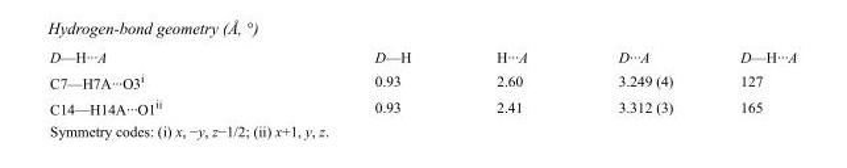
<table><tbody><tr><td>D—H···A</td><td>D—H</td><td>H···A</td><td>D···A</td><td>D—H···A</td></tr><tr><td>C7—H7A···O3<sup>i</sup></td><td>0.93</td><td>2.60</td><td>3.249 (4)</td><td>127</td></tr><tr><td>C14—H14A···O1<sup>ii</sup></td><td>0.93</td><td>2.41</td><td>3.312 (3)</td><td>165</td></tr></tbody></table>